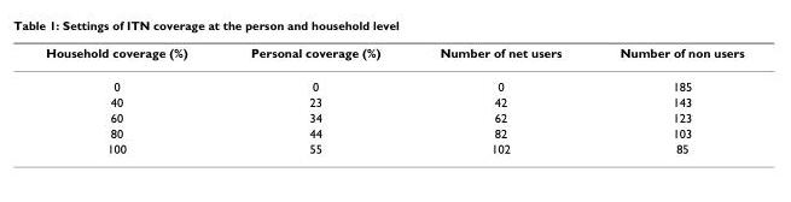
<table><thead><tr><td>Household coverage (%)</td><td>Personal coverage (%)</td><td>Number of net users</td><td>Number of non users</td></tr></thead><tbody><tr><td>0</td><td>0</td><td>0</td><td>185</td></tr><tr><td>40</td><td>23</td><td>42</td><td>143</td></tr><tr><td>60</td><td>34</td><td>62</td><td>123</td></tr><tr><td>80</td><td>44</td><td>82</td><td>103</td></tr><tr><td>100</td><td>55</td><td>102</td><td>85</td></tr></tbody></table>